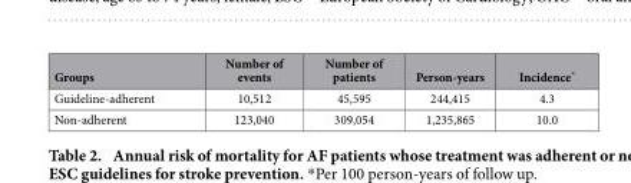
<table><thead><tr><td>Groups</td><td>Number of events</td><td>Number of patients</td><td>Person-years</td><td>Incidence*</td></tr></thead><tbody><tr><td>Guideline-adherent</td><td>10,512</td><td>45,595</td><td>244,415</td><td>4.3</td></tr><tr><td>Non-adherent</td><td>123,040</td><td>309,054</td><td>1,235,865</td><td>10.0</td></tr></tbody></table>